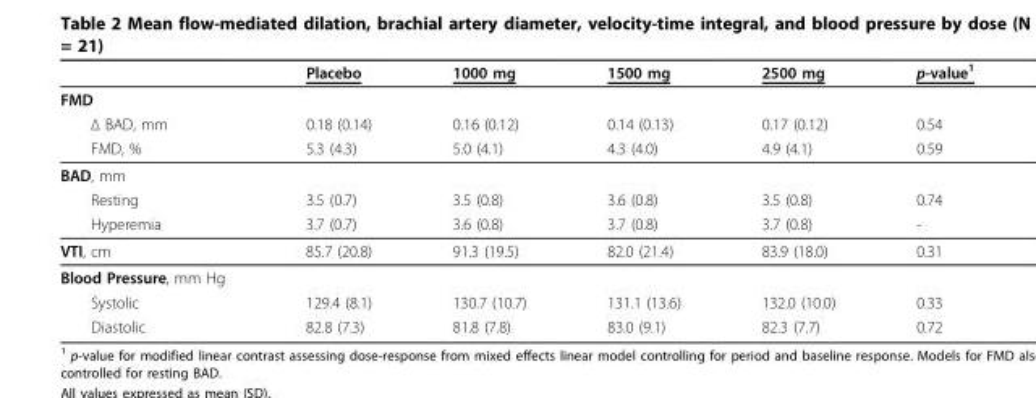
<table><thead><tr><td></td><td>Placebo</td><td>1000 mg</td><td>1500 mg</td><td>2500 mg</td><td>p-value<sup>1</sup></td></tr></thead><tbody><tr><td colspan="6">FMD</td></tr><tr><td>Δ BAD, mm</td><td>0.18 (0.14)</td><td>0.16 (0.12)</td><td>0.14 (0.13)</td><td>0.17 (0.12)</td><td>0.54</td></tr><tr><td>FMD, %</td><td>5.3 (4.3)</td><td>5.0 (4.1)</td><td>4.3 (4.0)</td><td>4.9 (4.1)</td><td>0.59</td></tr><tr><td colspan="6">BAD, mm</td></tr><tr><td>Resting</td><td>3.5 (0.7)</td><td>3.5 (0.8)</td><td>3.6 (0.8)</td><td>3.5 (0.8)</td><td>0.74</td></tr><tr><td>Hyperemia</td><td>3.7 (0.7)</td><td>3.6 (0.8)</td><td>3.7 (0.8)</td><td>3.7 (0.8)</td><td>-</td></tr><tr><td>VTI, cm</td><td>85.7 (20.8)</td><td>91.3 (19.5)</td><td>82.0 (21.4)</td><td>83.9 (18.0)</td><td>0.31</td></tr><tr><td colspan="6">Blood Pressure, mm Hg</td></tr><tr><td>Systolic</td><td>129.4 (8.1)</td><td>130.7 (10.7)</td><td>131.1 (13.6)</td><td>132.0 (10.0)</td><td>0.33</td></tr><tr><td>Diastolic</td><td>82.8 (7.3)</td><td>81.8 (7.8)</td><td>83.0 (9.1)</td><td>82.3 (7.7)</td><td>0.72</td></tr></tbody></table>